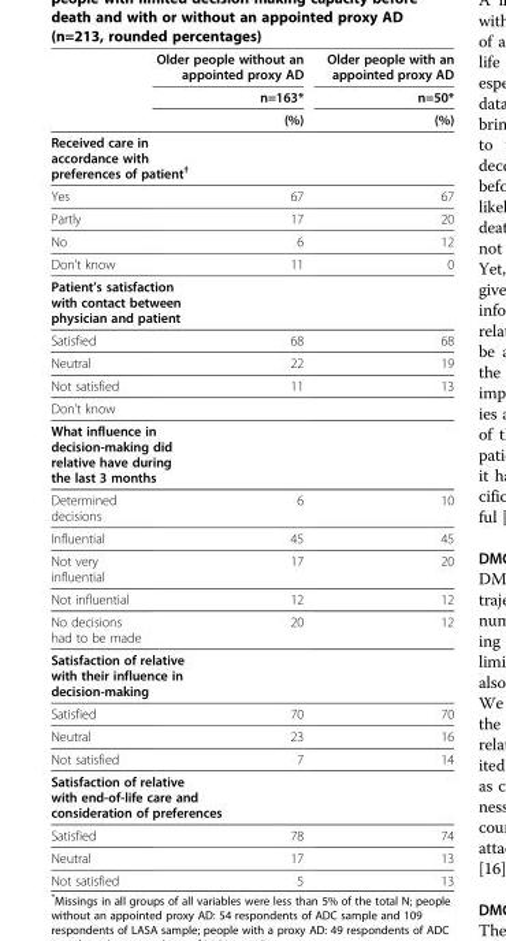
<table><thead><tr><td rowspan="3"></td><td rowspan="3">Older people without an appointed proxy AD n=163* (%)</td><td rowspan="3">Older people with an appointed proxy AD n=50* (%)</td></tr><tr></tr><tr></tr></thead><tbody><tr><td colspan="3">Received care in accordance with preferences of patient<sup>†</sup></td></tr><tr><td>Yes</td><td>67</td><td>67</td></tr><tr><td>Partly</td><td>17</td><td>20</td></tr><tr><td>No</td><td>6</td><td>12</td></tr><tr><td>Don’t know</td><td>11</td><td>0</td></tr><tr><td colspan="3">Patient’s satisfaction with contact between physician and patient</td></tr><tr><td>Satisfied</td><td>68</td><td>68</td></tr><tr><td>Neutral</td><td>22</td><td>19</td></tr><tr><td>Not satisfied</td><td>11</td><td>13</td></tr><tr><td colspan="3">Don’t know</td></tr><tr><td colspan="3">What influence in decision-making did relative have during the last 3 months</td></tr><tr><td>Determined decisions</td><td>6</td><td>10</td></tr><tr><td>Influential</td><td>45</td><td>45</td></tr><tr><td>Not very influential</td><td>17</td><td>20</td></tr><tr><td>Not influential</td><td>12</td><td>12</td></tr><tr><td>No decisions had to be made</td><td>20</td><td>12</td></tr><tr><td colspan="3">Satisfaction of relative with their influence in decision-making</td></tr><tr><td>Satisfied</td><td>70</td><td>70</td></tr><tr><td>Neutral</td><td>23</td><td>16</td></tr><tr><td>Not satisfied</td><td>7</td><td>14</td></tr><tr><td colspan="3">Satisfaction of relative with end-of-life care and consideration of preferences</td></tr><tr><td>Satisfied</td><td>78</td><td>74</td></tr><tr><td>Neutral</td><td>17</td><td>13</td></tr><tr><td>Not satisfied</td><td>5</td><td>13</td></tr></tbody></table>